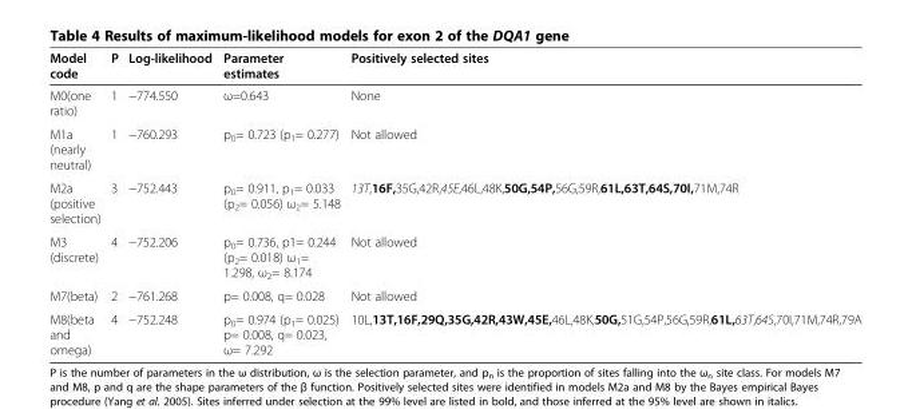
<table><thead><tr><td>Model code</td><td>P</td><td>Log-likelihood</td><td>Parameter estimates</td><td>Positively selected sites</td></tr></thead><tbody><tr><td>M0(one ratio)</td><td>1</td><td>−774.550</td><td>ω=0.643</td><td>None</td></tr><tr><td>M1a (nearly neutral)</td><td>1</td><td>−760.293</td><td>p<sub>0</sub>= 0.723 (p<sub>1</sub>= 0.277)</td><td>Not allowed</td></tr><tr><td>M2a (positive selection)</td><td>3</td><td>−752.443</td><td>p<sub>0</sub>= 0.911, p<sub>1</sub>= 0.033 (p<sub>2</sub>= 0.056) ω<sub>2</sub>= 5.148</td><td>13T,16F,35G,42R,45E,46L,48K,50G,54P,56G,59R,61L,63T,64S,70I,71M,74R</td></tr><tr><td>M3 (discrete)</td><td>4</td><td>−752.206</td><td>p<sub>0</sub>= 0.736, p1= 0.244 (p<sub>2</sub>= 0.018) ω<sub>1</sub>= 1.298, ω<sub>2</sub>= 8.174</td><td>Not allowed</td></tr><tr><td>M7(beta)</td><td>2</td><td>−761.268</td><td>p= 0.008, q= 0.028</td><td>Not allowed</td></tr><tr><td>M8(beta and omega)</td><td>4</td><td>−752.248</td><td>p<sub>0</sub>= 0.974 (p<sub>1</sub>= 0.025) p= 0.008, q= 0.023, ω= 7.292</td><td>10L,13T,16F,29Q,35G,42R,43W,45E,46L,48K,50G,51G,54P,56G,59R,61L,63T,64S,70I,71M,74R,79A</td></tr></tbody></table>